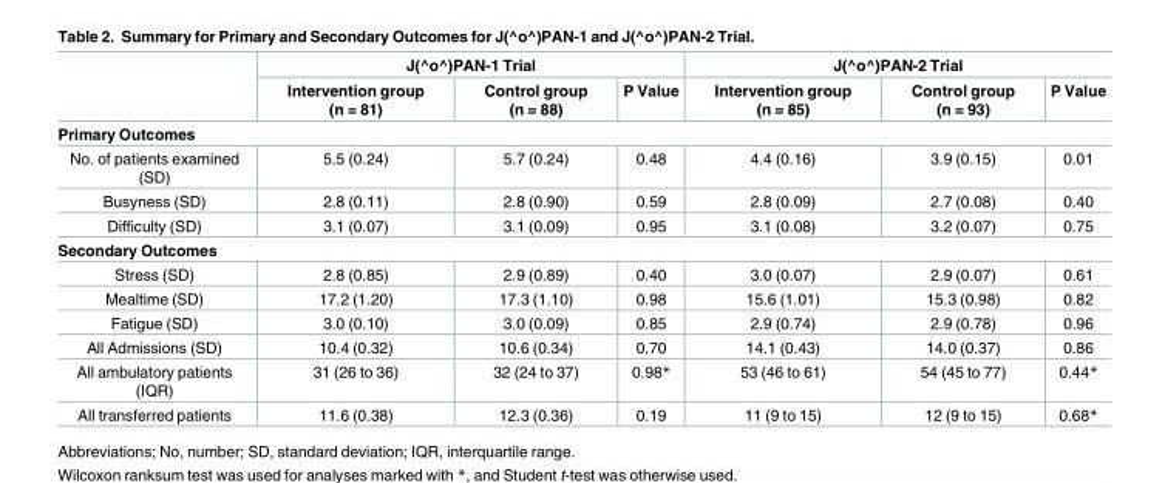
<table><thead><tr><td rowspan="2"></td><td colspan="3">J(^o^)PAN-1 Trial</td><td colspan="3">J(^o^)PAN-2 Trial</td></tr><tr><td>Intervention group (n = 81)</td><td>Control group (n = 88)</td><td>P Value</td><td>Intervention group (n = 85)</td><td>Control group (n = 93)</td><td>P Value</td></tr></thead><tbody><tr><td colspan="7">Primary Outcomes</td></tr><tr><td>No. of patients examined (SD)</td><td>5.5 (0.24)</td><td>5.7 (0.24)</td><td>0.48</td><td>4.4 (0.16)</td><td>3.9 (0.15)</td><td>0.01</td></tr><tr><td>Busyness (SD)</td><td>2.8 (0.11)</td><td>2.8 (0.90)</td><td>0.59</td><td>2.8 (0.09)</td><td>2.7 (0.08)</td><td>0.40</td></tr><tr><td>Difficulty (SD)</td><td>3.1 (0.07)</td><td>3.1 (0.09)</td><td>0.95</td><td>3.1 (0.08)</td><td>3.2 (0.07)</td><td>0.75</td></tr><tr><td colspan="7">Secondary Outcomes</td></tr><tr><td>Stress (SD)</td><td>2.8 (0.85)</td><td>2.9 (0.89)</td><td>0.40</td><td>3.0 (0.07)</td><td>2.9 (0.07)</td><td>0.61</td></tr><tr><td>Mealtime (SD)</td><td>17.2 (1.20)</td><td>17.3 (1.10)</td><td>0.98</td><td>15.6 (1.01)</td><td>15.3 (0.98)</td><td>0.82</td></tr><tr><td>Fatigue (SD)</td><td>3.0 (0.10)</td><td>3.0 (0.09)</td><td>0.85</td><td>2.9 (0.74)</td><td>2.9 (0.78)</td><td>0.96</td></tr><tr><td>All Admissions (SD)</td><td>10.4 (0.32)</td><td>10.6 (0.34)</td><td>0.70</td><td>14.1 (0.43)</td><td>14.0 (0.37)</td><td>0.86</td></tr><tr><td>All ambulatory patients (IQR)</td><td>31 (26 to 36)</td><td>32 (24 to 37)</td><td>0.98*</td><td>53 (46 to 61)</td><td>54 (45 to 77)</td><td>0.44*</td></tr><tr><td>All transferred patients</td><td>11.6 (0.38)</td><td>12.3 (0.36)</td><td>0.19</td><td>11 (9 to 15)</td><td>12 (9 to 15)</td><td>0.68*</td></tr></tbody></table>